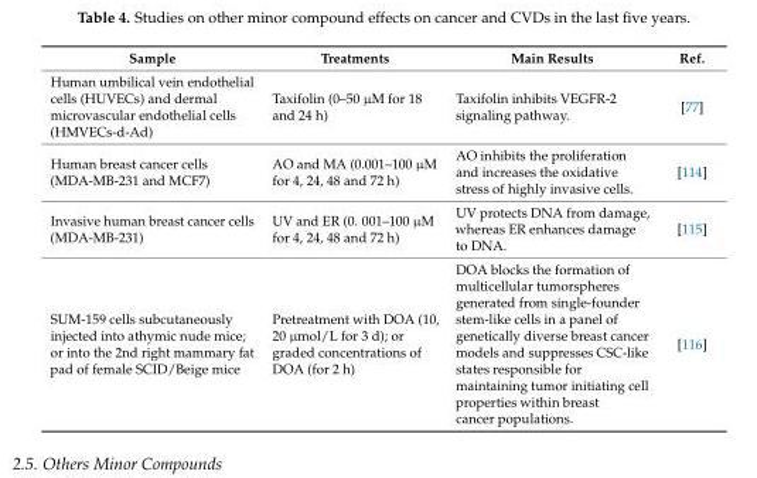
<table><thead><tr><td>Sample</td><td>Treatments</td><td>Main Results</td><td>Ref.</td></tr></thead><tbody><tr><td>Human umbilical vein endothelial cells (HUVECs) and dermal microvascular endothelial cells (HMVECs-d-Ad)</td><td>Taxifolin (0–50 µM for 18 and 24 h)</td><td>Taxifolin inhibits VEGFR-2 signaling pathway.</td><td>[77]</td></tr><tr><td>Human breast cancer cells (MDA-MB-231 and MCF7)</td><td>AO and MA (0.001–100 µM for 4, 24, 48 and 72 h)</td><td>AO inhibits the proliferation and increases the oxidative stress of highly invasive cells.</td><td>[114]</td></tr><tr><td>Invasive human breast cancer cells (MDA-MB-231)</td><td>UV and ER (0. 001–100 µM for 4, 24, 48 and 72 h)</td><td>UV protects DNA from damage, whereas ER enhances damage to DNA.</td><td>[115]</td></tr><tr><td>SUM-159 cells subcutaneously injected into athymic nude mice; or into the 2nd right mammary fat pad of female SCID/Beige mice</td><td>Pretreatment with DOA (10, 20 µmol/L for 3 d); or graded concentrations of DOA (for 2 h)</td><td>DOA blocks the formation of multicellular tumorspheres generated from single-founder stem-like cells in a panel of genetically diverse breast cancer models and suppresses CSC-like states responsible for maintaining tumor initiating cell properties within breast cancer populations.</td><td>[116]</td></tr></tbody></table>